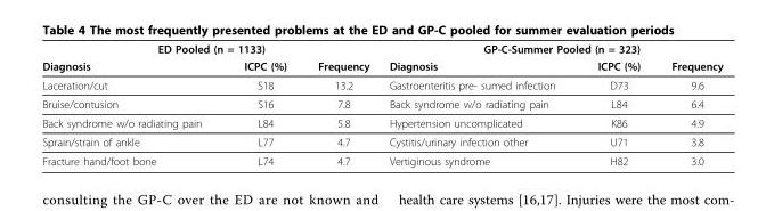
<table><thead><tr><td colspan="3">ED Pooled (n = 1133)</td><td colspan="3">GP-C-Summer Pooled (n = 323)</td></tr><tr><td>Diagnosis</td><td>ICPC (%)</td><td>Frequency</td><td>Diagnosis</td><td>ICPC (%)</td><td>Frequency</td></tr></thead><tbody><tr><td>Laceration/cut</td><td>S18</td><td>13.2</td><td>Gastroenteritis pre- sumed infection</td><td>D73</td><td>9.6</td></tr><tr><td>Bruise/contusion</td><td>S16</td><td>7.8</td><td>Back syndrome w/o radiating pain</td><td>L84</td><td>6.4</td></tr><tr><td>Back syndrome w/o radiating pain</td><td>L84</td><td>5.8</td><td>Hypertension uncomplicated</td><td>K86</td><td>4.9</td></tr><tr><td>Sprain/strain of ankle</td><td>L77</td><td>4.7</td><td>Cystitis/urinary infection other</td><td>U71</td><td>3.8</td></tr><tr><td>Fracture hand/foot bone</td><td>L74</td><td>4.7</td><td>Vertiginous syndrome</td><td>H82</td><td>3.0</td></tr></tbody></table>